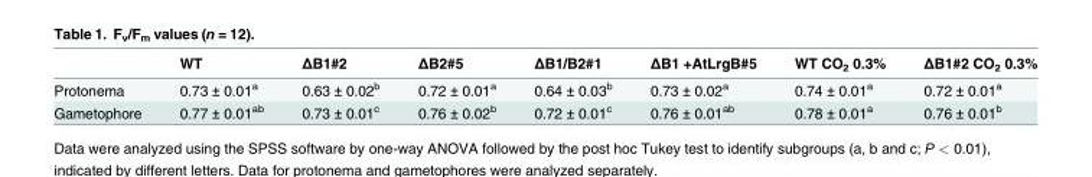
<table><thead><tr><td></td><td>WT</td><td>ΔB1#2</td><td>ΔB2#5</td><td>ΔB1/B2#1</td><td>ΔB1 +AtLrgB#5</td><td>WT CO<sub>2</sub> 0.3%</td><td>ΔB1#2 CO<sub>2</sub> 0.3%</td></tr></thead><tbody><tr><td>Protonema</td><td>0.73 ± 0.01<sup>a</sup></td><td>0.63 ± 0.02<sup>b</sup></td><td>0.72 ± 0.01<sup>a</sup></td><td>0.64 ± 0.03<sup>b</sup></td><td>0.73 ± 0.02<sup>a</sup></td><td>0.74 ± 0.01<sup>a</sup></td><td>0.72 ± 0.01<sup>a</sup></td></tr><tr><td>Gametophore</td><td>0.77 ± 0.01<sup>ab</sup></td><td>0.73 ± 0.01<sup>c</sup></td><td>0.76 ± 0.02<sup>b</sup></td><td>0.72 ± 0.01<sup>c</sup></td><td>0.76 ± 0.01<sup>ab</sup></td><td>0.78 ± 0.01<sup>a</sup></td><td>0.76 ± 0.01<sup>b</sup></td></tr></tbody></table>